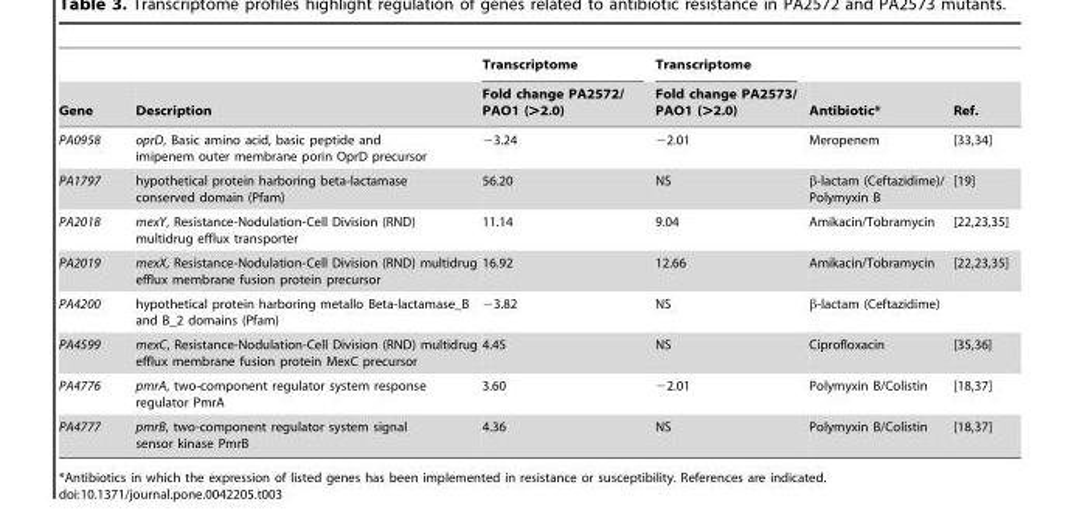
<table><thead><tr><td rowspan="2">Gene</td><td rowspan="2">Description</td><td rowspan="2">Transcriptome Fold change PA2572/ PAO1 (&gt;2.0)</td><td rowspan="2">Transcriptome Fold change PA2573/ PAO1 (&gt;2.0)</td><td rowspan="2">Antibiotic*</td><td rowspan="2">Ref.</td></tr><tr></tr></thead><tbody><tr><td>PA0958</td><td>oprD, Basic amino acid, basic peptide and imipenem outer membrane porin OprD precursor</td><td>−3.24</td><td>−2.01</td><td>Meropenem</td><td>[33,34]</td></tr><tr><td>PA1797</td><td>hypothetical protein harboring beta-lactamase conserved domain (Pfam)</td><td>56.20</td><td>NS</td><td>β-lactam (Ceftazidime)/ Polymyxin B</td><td>[19]</td></tr><tr><td>PA2018</td><td>mexY, Resistance-Nodulation-Cell Division (RND) multidrug efflux transporter</td><td>11.14</td><td>9.04</td><td>Amikacin/Tobramycin</td><td>[22,23,35]</td></tr><tr><td>PA2019</td><td>mexX, Resistance-Nodulation-Cell Division (RND) multidrug efflux membrane fusion protein precursor</td><td>16.92</td><td>12.66</td><td>Amikacin/Tobramycin</td><td>[22,23,35]</td></tr><tr><td>PA4200</td><td>hypothetical protein harboring metallo Beta-lactamase_B and B_2 domains (Pfam)</td><td>−3.82</td><td>NS</td><td>β-lactam (Ceftazidime)</td><td></td></tr><tr><td>PA4599</td><td>mexC, Resistance-Nodulation-Cell Division (RND) multidrug efflux membrane fusion protein MexC precursor</td><td>4.45</td><td>NS</td><td>Ciprofloxacin</td><td>[35,36]</td></tr><tr><td>PA4776</td><td>pmrA, two-component regulator system response regulator PmrA</td><td>3.60</td><td>−2.01</td><td>Polymyxin B/Colistin</td><td>[18,37]</td></tr><tr><td>PA4777</td><td>pmrB, two-component regulator system signal sensor kinase PmrB</td><td>4.36</td><td>NS</td><td>Polymyxin B/Colistin</td><td>[18,37]</td></tr></tbody></table>